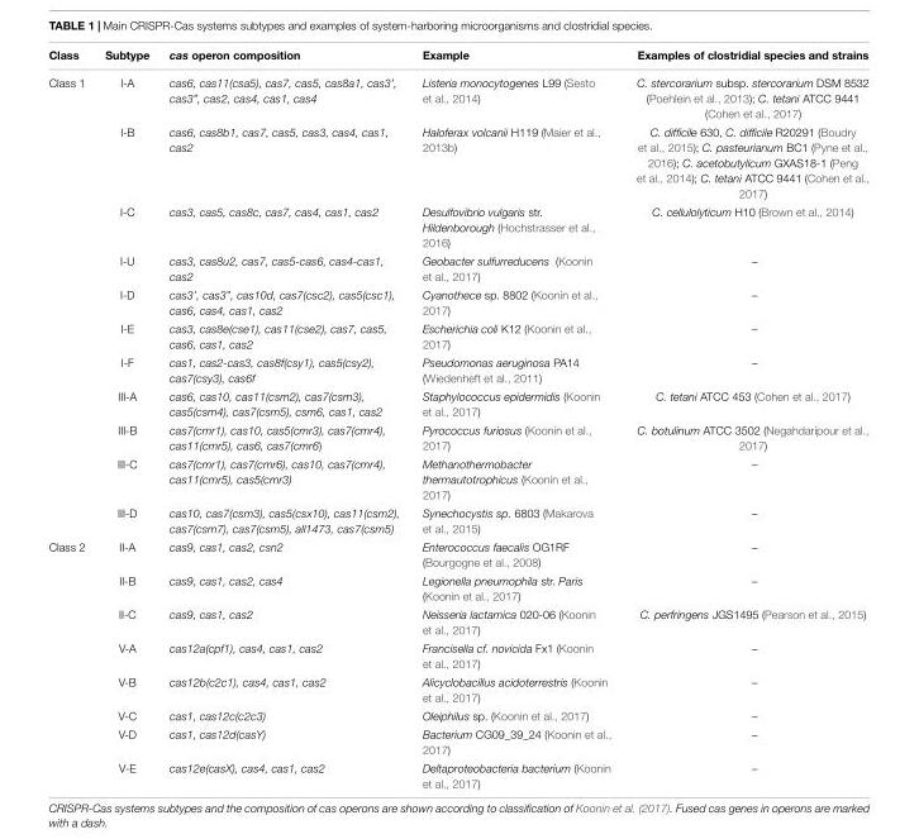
<table><thead><tr><td>Class</td><td>Subtype</td><td>cas operon composition</td><td>Example</td><td>Examples of clostridial species and strains</td></tr></thead><tbody><tr><td rowspan="11">Class 1</td><td>I-A</td><td>cas6, cas11(csa5), cas7, cas5, cas8a1, cas3’, cas3”, cas2, cas4, cas1, cas4</td><td>Listeria monocytogenes L99 (Sesto et al., 2014)</td><td>C. stercorarium subsp. stercorarium DSM 8532 (Poehlein et al., 2013); C. tetani ATCC 9441 (Cohen et al., 2017)</td></tr><tr><td>I-B</td><td>cas6, cas8b1, cas7, cas5, cas3, cas4, cas1, cas2</td><td>Haloferax volcanii H119 (Maier et al., 2013b)</td><td>C. difficile 630, C. difficile R20291 (Boudry et al., 2015); C. pasteurianum BC1 (Pyne et al., 2016); C. acetobutylicum GXAS18-1 (Peng et al., 2014); C. tetani ATCC 9441 (Cohen et al., 2017)</td></tr><tr><td>I-C</td><td>cas3, cas5, cas8c, cas7, cas4, cas1, cas2</td><td>Desulfovibrio vulgaris str. Hildenborough (Hochstrasser et al., 2016)</td><td>C. cellulolyticum H10 (Brown et al., 2014)</td></tr><tr><td>I-U</td><td>cas3, cas8u2, cas7, cas5-cas6, cas4-cas1, cas2</td><td>Geobacter sulfurreducens (Koonin et al., 2017)</td><td>–</td></tr><tr><td>I-D</td><td>cas3’, cas3”, cas10d, cas7(csc2), cas5(csc1), cas6, cas4, cas1, cas2</td><td>Cyanothece sp. 8802 (Koonin et al., 2017)</td><td>–</td></tr><tr><td>I-E</td><td>cas3, cas8e(cse1), cas11(cse2), cas7, cas5, cas6, cas1, cas2</td><td>Escherichia coli K12 (Koonin et al., 2017)</td><td>–</td></tr><tr><td>I-F</td><td>cas1, cas2-cas3, cas8f(csy1), cas5(csy2), cas7(csy3), cas6f</td><td>Pseudomonas aeruginosa PA14 (Wiedenheft et al., 2011)</td><td>–</td></tr><tr><td>III-A</td><td>cas6, cas10, cas11(csm2), cas7(csm3), cas5(csm4), cas7(csm5), csm6, cas1, cas2</td><td>Staphylococcus epidermidis (Koonin et al., 2017)</td><td>C. tetani ATCC 453 (Cohen et al., 2017)</td></tr><tr><td>III-B</td><td>cas7(cmr1), cas10, cas5(cmr3), cas7(cmr4), cas11(cmr5), cas6, cas7(cmr6)</td><td>Pyrococcus furiosus (Koonin et al., 2017)</td><td>C. botulinum ATCC 3502 (Negahdaripour et al., 2017)</td></tr><tr><td>III-C</td><td>cas7(cmr1), cas7(cmr6), cas10, cas7(cmr4), cas11(cmr5), cas5(cmr3)</td><td>Methanothermobacter thermautotrophicus (Koonin et al., 2017)</td><td>–</td></tr><tr><td>III-D</td><td>cas10, cas7(csm3), cas5(csx10), cas11(csm2), cas7(csm7), cas7(csm5), all1473, cas7(csm5)</td><td>Synechocystis sp. 6803 (Makarova et al., 2015)</td><td>–</td></tr><tr><td rowspan="8">Class 2</td><td>II-A</td><td>cas9, cas1, cas2, csn2</td><td>Enterococcus faecalis OG1RF (Bourgogne et al., 2008)</td><td>–</td></tr><tr><td>II-B</td><td>cas9, cas1, cas2, cas4</td><td>Legionella pneumophila str. Paris (Koonin et al., 2017)</td><td>–</td></tr><tr><td>II-C</td><td>cas9, cas1, cas2</td><td>Neisseria lactamica 020-06 (Koonin et al., 2017)</td><td>C. perfringens JGS1495 (Pearson et al., 2015)</td></tr><tr><td>V-A</td><td>cas12a(cpf1), cas4, cas1, cas2</td><td>Francisella cf. novicida Fx1 (Koonin et al., 2017)</td><td>–</td></tr><tr><td>V-B</td><td>cas12b(c2c1), cas4, cas1, cas2</td><td>Alicyclobacillus acidoterrestris (Koonin et al., 2017)</td><td>–</td></tr><tr><td>V-C</td><td>cas1, cas12c(c2c3)</td><td>Oleiphilus sp. (Koonin et al., 2017)</td><td>–</td></tr><tr><td>V-D</td><td>cas1, cas12d(casY)</td><td>Bacterium CG09_39_24 (Koonin et al., 2017)</td><td>–</td></tr><tr><td>V-E</td><td>cas12e(casX), cas4, cas1, cas2</td><td>Deltaproteobacteria bacterium (Koonin et al., 2017)</td><td>–</td></tr></tbody></table>